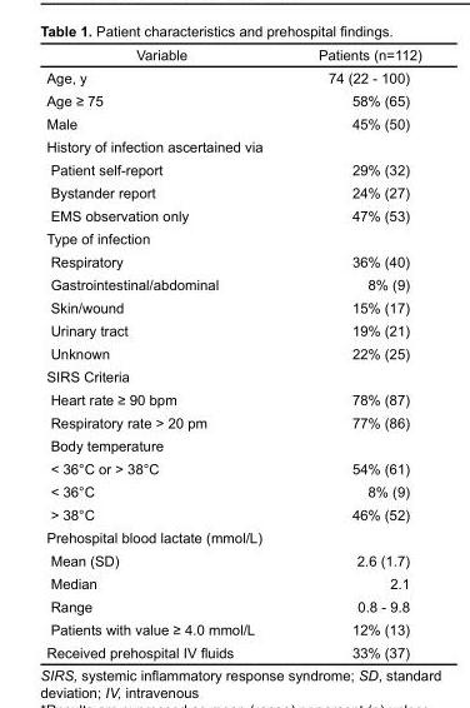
<table><thead><tr><td>Variable</td><td>Patients (n=112)</td></tr></thead><tbody><tr><td>Age, y</td><td>74 (22 - 100)</td></tr><tr><td>Age ≥ 75</td><td>58% (65)</td></tr><tr><td>Male</td><td>45% (50)</td></tr><tr><td colspan="2">History of infection ascertained via</td></tr><tr><td>Patient self-report</td><td>29% (32)</td></tr><tr><td>Bystander report</td><td>24% (27)</td></tr><tr><td>EMS observation only</td><td>47% (53)</td></tr><tr><td colspan="2">Type of infection</td></tr><tr><td>Respiratory</td><td>36% (40)</td></tr><tr><td>Gastrointestinal/abdominal</td><td>8% (9)</td></tr><tr><td>Skin/wound</td><td>15% (17)</td></tr><tr><td>Urinary tract</td><td>19% (21)</td></tr><tr><td>Unknown</td><td>22% (25)</td></tr><tr><td colspan="2">SIRS Criteria</td></tr><tr><td>Heart rate ≥ 90 bpm</td><td>78% (87)</td></tr><tr><td>Respiratory rate &gt; 20 pm</td><td>77% (86)</td></tr><tr><td colspan="2">Body temperature</td></tr><tr><td>&lt; 36°C or &gt; 38°C</td><td>54% (61)</td></tr><tr><td>&lt; 36°C</td><td>8% (9)</td></tr><tr><td>&gt; 38°C</td><td>46% (52)</td></tr><tr><td colspan="2">Prehospital blood lactate (mmol/L)</td></tr><tr><td>Mean (SD)</td><td>2.6 (1.7)</td></tr><tr><td>Median</td><td>2.1</td></tr><tr><td>Range</td><td>0.8 - 9.8</td></tr><tr><td>Patients with value ≥ 4.0 mmol/L</td><td>12% (13)</td></tr><tr><td>Received prehospital IV fluids</td><td>33% (37)</td></tr></tbody></table>